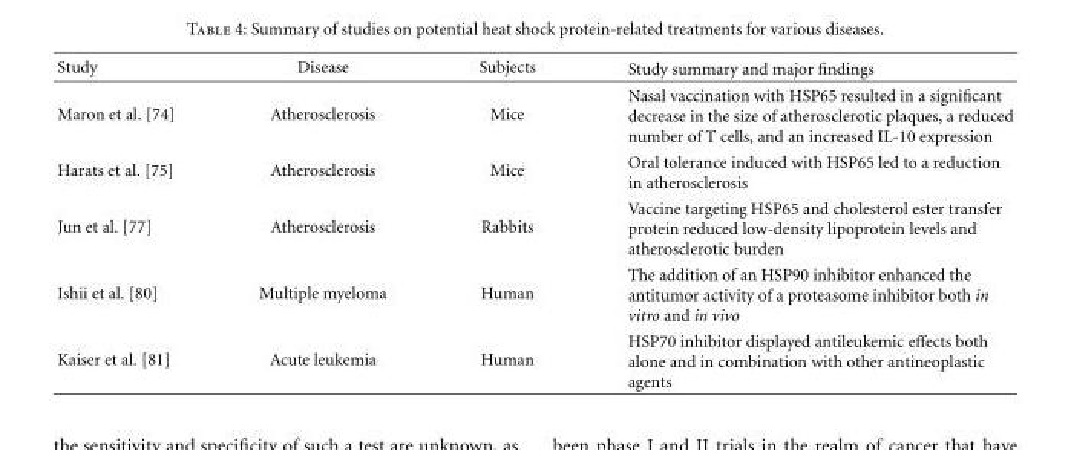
<table><thead><tr><td>Study</td><td>Disease</td><td>Subjects</td><td>Study summary and major findings</td></tr></thead><tbody><tr><td>Maron et al. [74]</td><td>Atherosclerosis</td><td>Mice</td><td>Nasal vaccination with HSP65 resulted in a significant decrease in the size of atherosclerotic plaques, a reduced number of T cells, and an increased IL-10 expression</td></tr><tr><td>Harats et al. [75]</td><td>Atherosclerosis</td><td>Mice</td><td>Oral tolerance induced with HSP65 led to a reduction in atherosclerosis</td></tr><tr><td>Jun et al. [77]</td><td>Atherosclerosis</td><td>Rabbits</td><td>Vaccine targeting HSP65 and cholesterol ester transfer protein reduced low-density lipoprotein levels and atherosclerotic burden</td></tr><tr><td>Ishii et al. [80]</td><td>Multiple myeloma</td><td>Human</td><td>The addition of an HSP90 inhibitor enhanced the antitumor activity of a proteasome inhibitor both in vitro and in vivo</td></tr><tr><td>Kaiser et al. [81]</td><td>Acute leukemia</td><td>Human</td><td>HSP70 inhibitor displayed antileukemic effects both alone and in combination with other antineoplastic agents</td></tr></tbody></table>